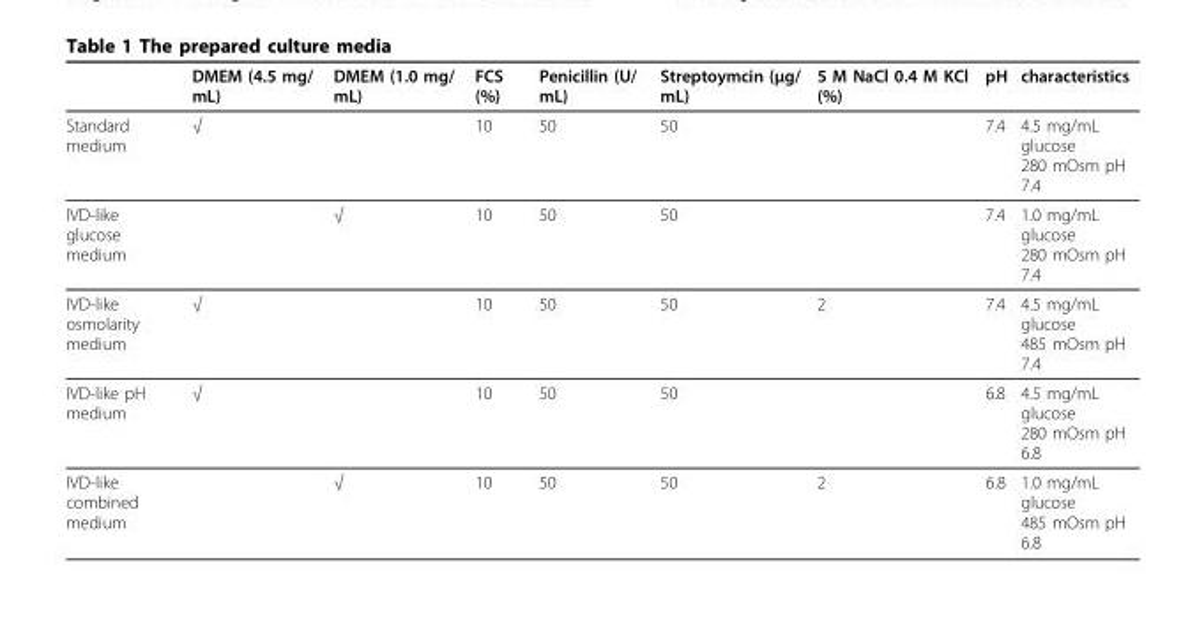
<table><thead><tr><td></td><td>DMEM (4.5 mg/ mL)</td><td>DMEM (1.0 mg/ mL)</td><td>FCS (%)</td><td>Penicillin (U/ mL)</td><td>Streptoymcin (μg/ mL)</td><td>5 M NaCl 0.4 M KCl (%)</td><td>pH</td><td>characteristics</td></tr></thead><tbody><tr><td>Standard medium</td><td>√</td><td></td><td>10</td><td>50</td><td>50</td><td></td><td>7.4</td><td>4.5 mg/mL glucose 280 mOsm pH 7.4</td></tr><tr><td>IVD-like glucose medium</td><td></td><td>√</td><td>10</td><td>50</td><td>50</td><td></td><td>7.4</td><td>1.0 mg/mL glucose 280 mOsm pH 7.4</td></tr><tr><td>IVD-like osmolarity medium</td><td>√</td><td></td><td>10</td><td>50</td><td>50</td><td>2</td><td>7.4</td><td>4.5 mg/mL glucose 485 mOsm pH 7.4</td></tr><tr><td>IVD-like pH medium</td><td>√</td><td></td><td>10</td><td>50</td><td>50</td><td></td><td>6.8</td><td>4.5 mg/mL glucose 280 mOsm pH 6.8</td></tr><tr><td>IVD-like combined medium</td><td></td><td>√</td><td>10</td><td>50</td><td>50</td><td>2</td><td>6.8</td><td>1.0 mg/mL glucose 485 mOsm pH 6.8</td></tr></tbody></table>